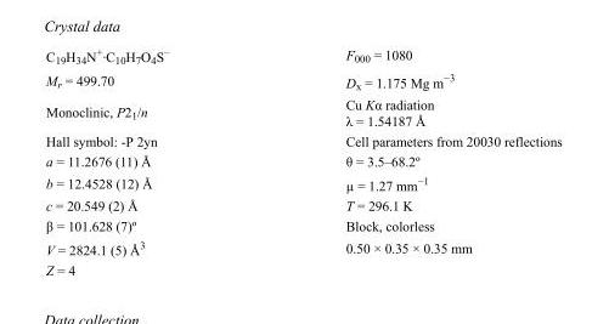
<table><tbody><tr><td>C<sub>19</sub>H<sub>34</sub>N<sup>+</sup>·C<sub>10</sub>H<sub>7</sub>O<sub>4</sub>S<sup>–</sup></td><td>F000 = 1080</td></tr><tr><td>M<sub>r</sub> = 499.70</td><td>D<sub>x</sub> = 1.175 Mg m<sup>−3</sup></td></tr><tr><td>Monoclinic, P2<sub>1</sub>/n</td><td>Cu Kα radiation λ = 1.54187 Å</td></tr><tr><td>Hall symbol: -P 2yn</td><td>Cell parameters from 20030 reflections</td></tr><tr><td>a = 11.2676 (11) Å</td><td>θ = 3.5–68.2º</td></tr><tr><td>b = 12.4528 (12) Å</td><td>µ = 1.27 mm<sup>−1</sup></td></tr><tr><td>c = 20.549 (2) Å</td><td>T = 296.1 K</td></tr><tr><td>β = 101.628 (7)º</td><td>Block, colorless</td></tr><tr><td>V = 2824.1 (5) Å<sup>3</sup></td><td>0.50 × 0.35 × 0.35 mm</td></tr><tr><td>Z = 4</td><td></td></tr></tbody></table>